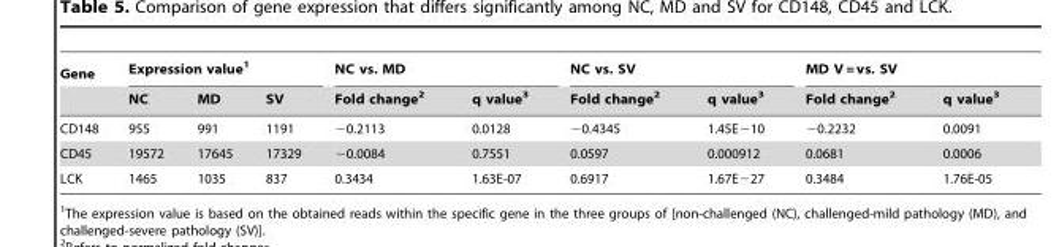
<table><thead><tr><td rowspan="2">Gene</td><td colspan="3">Expression value<sup>1</sup></td><td colspan="2">NC vs. MD</td><td colspan="2">NC vs. SV</td><td colspan="2">MD V = vs. SV</td></tr><tr><td>NC</td><td>MD</td><td>SV</td><td>Fold change<sup>2</sup></td><td>q value<sup>3</sup></td><td>Fold change<sup>2</sup></td><td>q value<sup>3</sup></td><td>Fold change<sup>2</sup></td><td>q value<sup>3</sup></td></tr></thead><tbody><tr><td>CD148</td><td>955</td><td>991</td><td>1191</td><td>−0.2113</td><td>0.0128</td><td>−0.4345</td><td>1.45E−10</td><td>−0.2232</td><td>0.0091</td></tr><tr><td>CD45</td><td>19572</td><td>17645</td><td>17329</td><td>−0.0084</td><td>0.7551</td><td>0.0597</td><td>0.000912</td><td>0.0681</td><td>0.0006</td></tr><tr><td>LCK</td><td>1465</td><td>1035</td><td>837</td><td>0.3434</td><td>1.63E-07</td><td>0.6917</td><td>1.67E−27</td><td>0.3484</td><td>1.76E-05</td></tr></tbody></table>